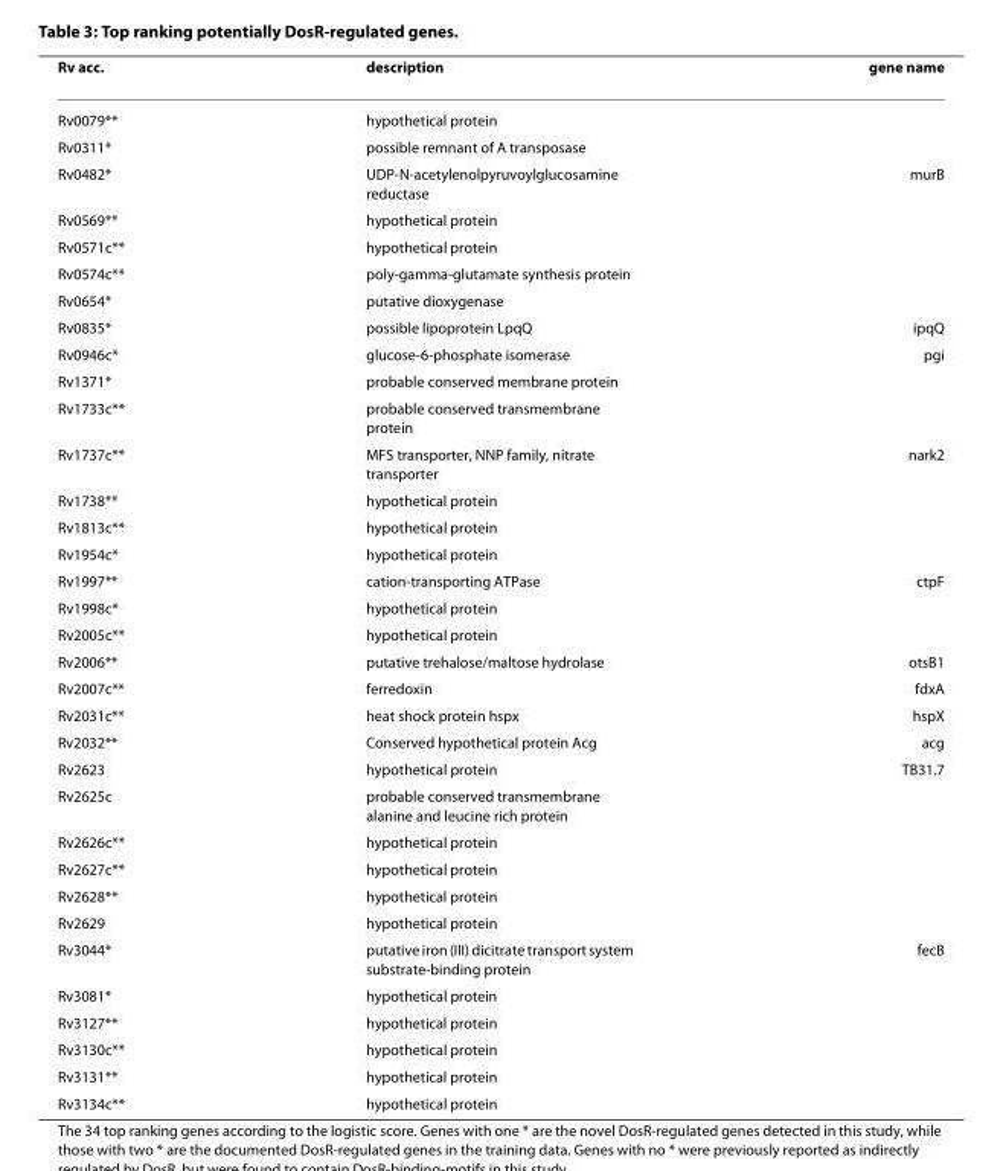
<table><thead><tr><td>Rv acc.</td><td>description</td><td>gene name</td></tr></thead><tbody><tr><td>Rv0079**</td><td>hypothetical protein</td><td></td></tr><tr><td>Rv0311*</td><td>possible remnant of A transposase</td><td></td></tr><tr><td>Rv0482*</td><td>UDP-N-acetylenolpyruvoylglucosamine reductase</td><td>murB</td></tr><tr><td>Rv0569**</td><td>hypothetical protein</td><td></td></tr><tr><td>Rv0571c**</td><td>hypothetical protein</td><td></td></tr><tr><td>Rv0574c**</td><td>poly-gamma-glutamate synthesis protein</td><td></td></tr><tr><td>Rv0654*</td><td>putative dioxygenase</td><td></td></tr><tr><td>Rv0835*</td><td>possible lipoprotein LpqQ</td><td>ipqQ</td></tr><tr><td>Rv0946c*</td><td>glucose-6-phosphate isomerase</td><td>pgi</td></tr><tr><td>Rv1371*</td><td>probable conserved membrane protein</td><td></td></tr><tr><td>Rv1733c**</td><td>probable conserved transmembrane protein</td><td></td></tr><tr><td>Rv1737c**</td><td>MFS transporter, NNP family, nitrate transporter</td><td>nark2</td></tr><tr><td>Rv1738**</td><td>hypothetical protein</td><td></td></tr><tr><td>Rv1813c**</td><td>hypothetical protein</td><td></td></tr><tr><td>Rv1954c*</td><td>hypothetical protein</td><td></td></tr><tr><td>Rv1997**</td><td>cation-transporting ATPase</td><td>ctpF</td></tr><tr><td>Rv1998c*</td><td>hypothetical protein</td><td></td></tr><tr><td>Rv2005c**</td><td>hypothetical protein</td><td></td></tr><tr><td>Rv2006**</td><td>putative trehalose/maltose hydrolase</td><td>otsB1</td></tr><tr><td>Rv2007c**</td><td>ferredoxin</td><td>fdxA</td></tr><tr><td>Rv2031c**</td><td>heat shock protein hspx</td><td>hspX</td></tr><tr><td>Rv2032**</td><td>Conserved hypothetical protein Acg</td><td>acg</td></tr><tr><td>Rv2623</td><td>hypothetical protein</td><td>TB31.7</td></tr><tr><td>Rv2625c</td><td>probable conserved transmembrane alanine and leucine rich protein</td><td></td></tr><tr><td>Rv2626c**</td><td>hypothetical protein</td><td></td></tr><tr><td>Rv2627c**</td><td>hypothetical protein</td><td></td></tr><tr><td>Rv2628**</td><td>hypothetical protein</td><td></td></tr><tr><td>Rv2629</td><td>hypothetical protein</td><td></td></tr><tr><td>Rv3044*</td><td>putative iron (III) dicitrate transport system substrate-binding protein</td><td>fecB</td></tr><tr><td>Rv3081*</td><td>hypothetical protein</td><td></td></tr><tr><td>Rv3127**</td><td>hypothetical protein</td><td></td></tr><tr><td>Rv3130c**</td><td>hypothetical protein</td><td></td></tr><tr><td>Rv3131**</td><td>hypothetical protein</td><td></td></tr><tr><td>Rv3134c**</td><td>hypothetical protein</td><td></td></tr></tbody></table>